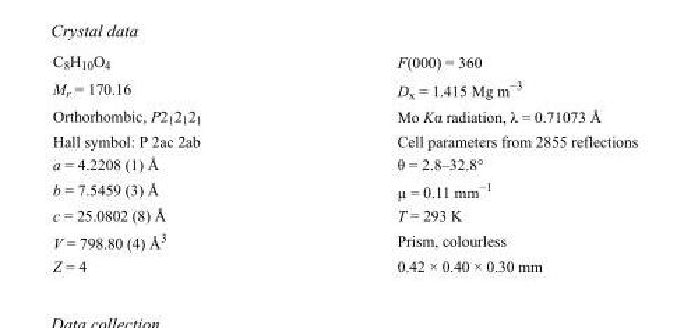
<table><tbody><tr><td>C<sub>8</sub>H<sub>10</sub>O<sub>4</sub></td><td>F(000) = 360</td></tr><tr><td>M<sub>r</sub> = 170.16</td><td>D<sub>x</sub> = 1.415 Mg m<sup>−3</sup></td></tr><tr><td>Orthorhombic, P2<sub>1</sub>2<sub>1</sub>2<sub>1</sub></td><td>Mo Kα radiation, λ = 0.71073 Å</td></tr><tr><td>Hall symbol: P 2ac 2ab</td><td>Cell parameters from 2855 reflections</td></tr><tr><td>a = 4.2208 (1) Å</td><td>θ = 2.8–32.8°</td></tr><tr><td>b = 7.5459 (3) Å</td><td>µ = 0.11 mm<sup>−1</sup></td></tr><tr><td>c = 25.0802 (8) Å</td><td>T = 293 K</td></tr><tr><td>V = 798.80 (4) Å<sup>3</sup></td><td>Prism, colourless</td></tr><tr><td>Z = 4</td><td>0.42 × 0.40 × 0.30 mm</td></tr></tbody></table>